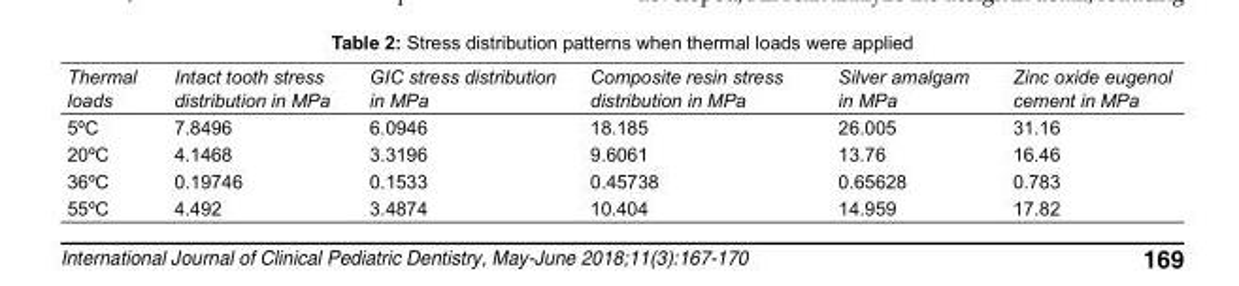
<table><tbody><tr><td>Thermal loads</td><td>Intact tooth stress distribution in MPa</td><td>GIC stress distribution in MPa</td><td>Composite resin stress distribution in MPa</td><td>Silver amalgam in MPa</td><td>Zinc oxide eugenol cement in MPa</td></tr><tr><td>5ºC</td><td>7.8496</td><td>6.0946</td><td>18.185</td><td>26.005</td><td>31.16</td></tr><tr><td>20ºC</td><td>4.1468</td><td>3.3196</td><td>9.6061</td><td>13.76</td><td>16.46</td></tr><tr><td>36ºC</td><td>0.19746</td><td>0.1533</td><td>0.45738</td><td>0.65628</td><td>0.783</td></tr><tr><td>55ºC</td><td>4.492</td><td>3.4874</td><td>10.404</td><td>14.959</td><td>17.82</td></tr></tbody></table>